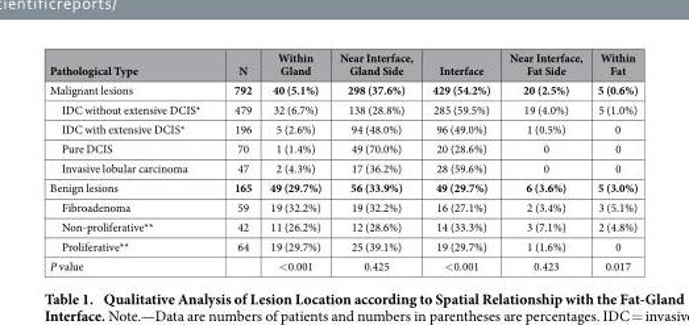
<table><thead><tr><td>Pathological Type</td><td>N</td><td>Within Gland</td><td>Near Interface, Gland Side</td><td>Interface</td><td>Near Interface, Fat Side</td><td>Within Fat</td></tr></thead><tbody><tr><td>Malignant lesions</td><td>792</td><td>40 (5.1%)</td><td>298 (37.6%)</td><td>429 (54.2%)</td><td>20 (2.5%)</td><td>5 (0.6%)</td></tr><tr><td>IDC without extensive DCIS*</td><td>479</td><td>32 (6.7%)</td><td>138 (28.8%)</td><td>285 (59.5%)</td><td>19 (4.0%)</td><td>5 (1.0%)</td></tr><tr><td>IDC with extensive DCIS*</td><td>196</td><td>5 (2.6%)</td><td>94 (48.0%)</td><td>96 (49.0%)</td><td>1 (0.5%)</td><td>0</td></tr><tr><td>Pure DCIS</td><td>70</td><td>1 (1.4%)</td><td>49 (70.0%)</td><td>20 (28.6%)</td><td>0</td><td>0</td></tr><tr><td>Invasive lobular carcinoma</td><td>47</td><td>2 (4.3%)</td><td>17 (36.2%)</td><td>28 (59.6%)</td><td>0</td><td>0</td></tr><tr><td>Benign lesions</td><td>165</td><td>49 (29.7%)</td><td>56 (33.9%)</td><td>49 (29.7%)</td><td>6 (3.6%)</td><td>5 (3.0%)</td></tr><tr><td>Fibroadenoma</td><td>59</td><td>19 (32.2%)</td><td>19 (32.2%)</td><td>16 (27.1%)</td><td>2 (3.4%)</td><td>3 (5.1%)</td></tr><tr><td>Non-proliferative**</td><td>42</td><td>11 (26.2%)</td><td>12 (28.6%)</td><td>14 (33.3%)</td><td>3 (7.1%)</td><td>2 (4.8%)</td></tr><tr><td>Proliferative**</td><td>64</td><td>19 (29.7%)</td><td>25 (39.1%)</td><td>19 (29.7%)</td><td>1 (1.6%)</td><td>0</td></tr><tr><td>P value</td><td></td><td>&lt; 0.001</td><td>0.425</td><td>&lt; 0.001</td><td>0.423</td><td>0.017</td></tr></tbody></table>